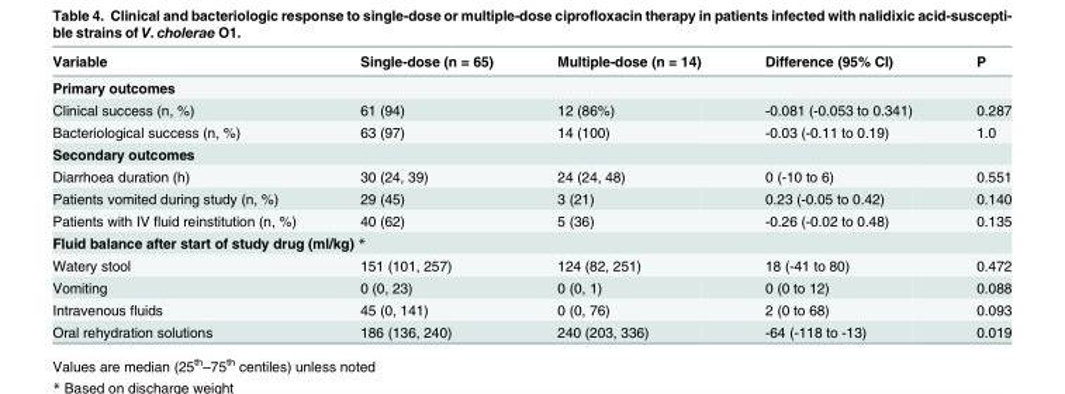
<table><thead><tr><td>Variable</td><td>Single-dose (n = 65)</td><td>Multiple-dose (n = 14)</td><td>Difference (95% CI)</td><td>P</td></tr></thead><tbody><tr><td colspan="5">Primary outcomes</td></tr><tr><td>Clinical success (n, %)</td><td>61 (94)</td><td>12 (86%)</td><td>-0.081 (-0.053 to 0.341)</td><td>0.287</td></tr><tr><td>Bacteriological success (n, %)</td><td>63 (97)</td><td>14 (100)</td><td>-0.03 (-0.11 to 0.19)</td><td>1.0</td></tr><tr><td colspan="5">Secondary outcomes</td></tr><tr><td>Diarrhoea duration (h)</td><td>30 (24, 39)</td><td>24 (24, 48)</td><td>0 (-10 to 6)</td><td>0.551</td></tr><tr><td>Patients vomited during study (n, %)</td><td>29 (45)</td><td>3 (21)</td><td>0.23 (-0.05 to 0.42)</td><td>0.140</td></tr><tr><td>Patients with IV fluid reinstitution (n, %)</td><td>40 (62)</td><td>5 (36)</td><td>-0.26 (-0.02 to 0.48)</td><td>0.135</td></tr><tr><td colspan="5">Fluid balance after start of study drug (ml/kg) *</td></tr><tr><td>Watery stool</td><td>151 (101, 257)</td><td>124 (82, 251)</td><td>18 (-41 to 80)</td><td>0.472</td></tr><tr><td>Vomiting</td><td>0 (0, 23)</td><td>0 (0, 1)</td><td>0 (0 to 12)</td><td>0.088</td></tr><tr><td>Intravenous fluids</td><td>45 (0, 141)</td><td>0 (0, 76)</td><td>2 (0 to 68)</td><td>0.093</td></tr><tr><td>Oral rehydration solutions</td><td>186 (136, 240)</td><td>240 (203, 336)</td><td>-64 (-118 to -13)</td><td>0.019</td></tr></tbody></table>